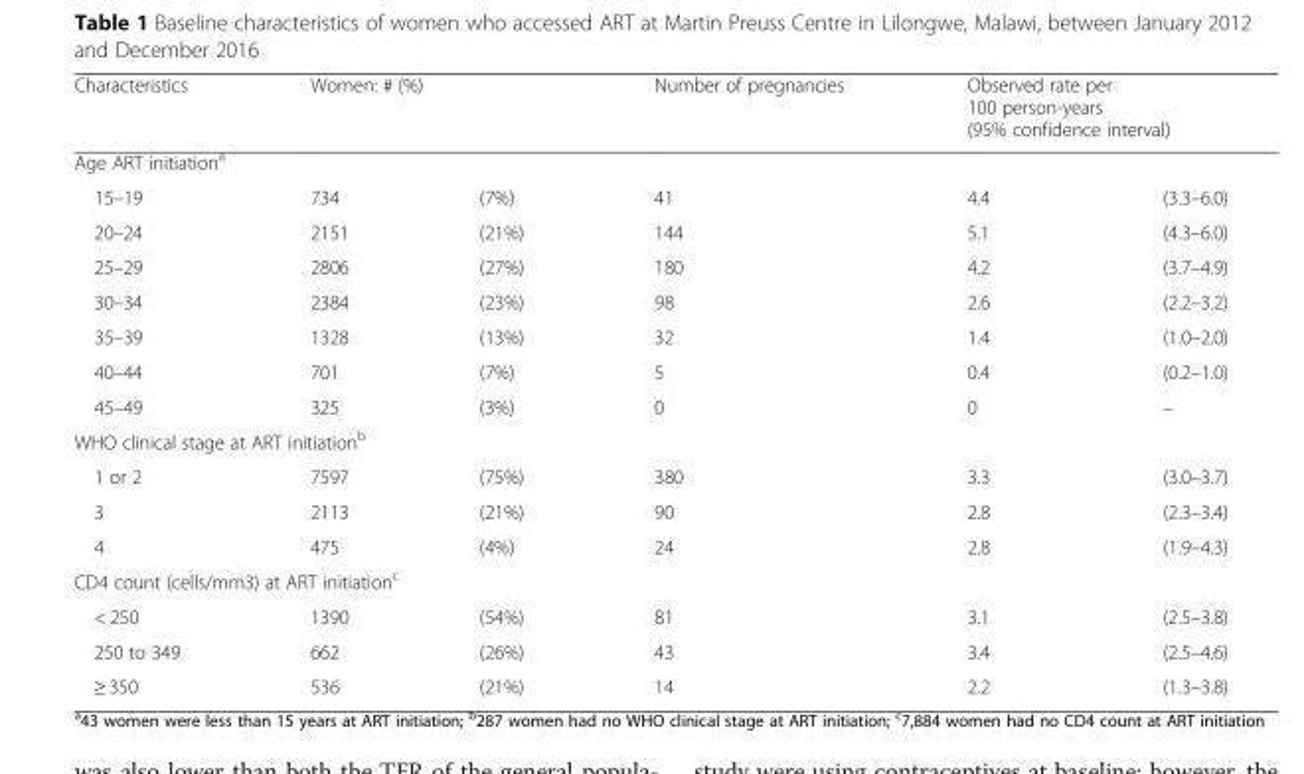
<table><thead><tr><td>Characteristics</td><td colspan="2">Women: # (%)</td><td>Number of pregnancies</td><td colspan="2">Observed rate per 100 person-years (95% confidence interval)</td></tr><tr><td colspan="6">Age ART initiation<sup>a</sup></td></tr><tr><td>15–19</td><td>734</td><td>(7%)</td><td>41</td><td>4.4</td><td>(3.3–6.0)</td></tr></thead><tbody><tr><td>20–24</td><td>2151</td><td>(21%)</td><td>144</td><td>5.1</td><td>(4.3–6.0)</td></tr><tr><td>25–29</td><td>2806</td><td>(27%)</td><td>180</td><td>4.2</td><td>(3.7–4.9)</td></tr><tr><td>30–34</td><td>2384</td><td>(23%)</td><td>98</td><td>2.6</td><td>(2.2–3.2)</td></tr><tr><td>35–39</td><td>1328</td><td>(13%)</td><td>32</td><td>1.4</td><td>(1.0–2.0)</td></tr><tr><td>40–44</td><td>701</td><td>(7%)</td><td>5</td><td>0.4</td><td>(0.2–1.0)</td></tr><tr><td>45–49</td><td>325</td><td>(3%)</td><td>0</td><td>0</td><td>–</td></tr><tr><td colspan="6">WHO clinical stage at ART initiation<sup>b</sup></td></tr><tr><td>1 or 2</td><td>7597</td><td>(75%)</td><td>380</td><td>3.3</td><td>(3.0–3.7)</td></tr><tr><td>3</td><td>2113</td><td>(21%)</td><td>90</td><td>2.8</td><td>(2.3–3.4)</td></tr><tr><td>4</td><td>475</td><td>(4%)</td><td>24</td><td>2.8</td><td>(1.9–4.3)</td></tr><tr><td colspan="6">CD4 count (cells/mm3) at ART initiation<sup>c</sup></td></tr><tr><td>&lt; 250</td><td>1390</td><td>(54%)</td><td>81</td><td>3.1</td><td>(2.5–3.8)</td></tr><tr><td>250 to 349</td><td>662</td><td>(26%)</td><td>43</td><td>3.4</td><td>(2.5–4.6)</td></tr><tr><td>≥ 350</td><td>536</td><td>(21%)</td><td>14</td><td>2.2</td><td>(1.3–3.8)</td></tr></tbody></table>